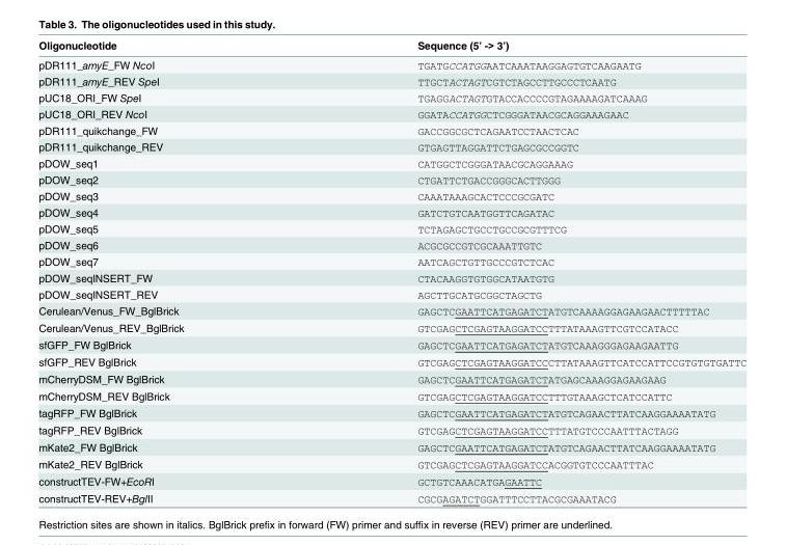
<table><thead><tr><td>Oligonucleotide</td><td>Sequence (5’ -&gt; 3’)</td></tr></thead><tbody><tr><td>pDR111_amyE_FW NcoI</td><td>TGATGCCATGGAATCAAATAAGGAGTGTCAAGAATG</td></tr><tr><td>pDR111_amyE_REV SpeI</td><td>TTGCTACTAGTCGTCTAGCCTTGCCCTCAATG</td></tr><tr><td>pUC18_ORI_FW SpeI</td><td>TGAGGACTAGTGTACCACCCCGTAGAAAAGATCAAAG</td></tr><tr><td>pUC18_ORI_REV NcoI</td><td>GGATACCATGGCTCGGGATAACGCAGGAAAGAAC</td></tr><tr><td>pDR111_quikchange_FW</td><td>GACCGGCGCTCAGAATCCTAACTCAC</td></tr><tr><td>pDR111_quikchange_REV</td><td>GTGAGTTAGGATTCTGAGCGCCGGTC</td></tr><tr><td>pDOW_seq1</td><td>CATGGCTCGGGATAACGCAGGAAAG</td></tr><tr><td>pDOW_seq2</td><td>CTGATTCTGACCGGGCACTTGGG</td></tr><tr><td>pDOW_seq3</td><td>CAAATAAAGCACTCCCGCGATC</td></tr><tr><td>pDOW_seq4</td><td>GATCTGTCAATGGTTCAGATAC</td></tr><tr><td>pDOW_seq5</td><td>TCTAGAGCTGCCTGCCGCGTTTCG</td></tr><tr><td>pDOW_seq6</td><td>ACGCGCCGTCGCAAATTGTC</td></tr><tr><td>pDOW_seq7</td><td>AATCAGCTGTTGCCCGTCTCAC</td></tr><tr><td>pDOW_seqINSERT_FW</td><td>CTACAAGGTGTGGCATAATGTG</td></tr><tr><td>pDOW_seqINSERT_REV</td><td>AGCTTGCATGCGGCTAGCTG</td></tr><tr><td>Cerulean/Venus_FW_BglBrick</td><td>GAGCTCGAATTCATGAGATCTATGTCAAAAGGAGAAGAACTTTTTAC</td></tr><tr><td>Cerulean/Venus_REV_BglBrick</td><td>GTCGAGCTCGAGTAAGGATCCTTTATAAAGTTCGTCCATACC</td></tr><tr><td>sfGFP_FW BglBrick</td><td>GAGCTCGAATTCATGAGATCTATGTCAAAGGGAGAAGAATTG</td></tr><tr><td>sfGFP_REV BglBrick</td><td>GTCGAGCTCGAGTAAGGATCCCTTATAAAGTTCATCCATTCCGTGTGTGATTC</td></tr><tr><td>mCherryDSM_FW BglBrick</td><td>GAGCTCGAATTCATGAGATCTATGAGCAAAGGAGAAGAAG</td></tr><tr><td>mCherryDSM_REV BglBrick</td><td>GTCGAGCTCGAGTAAGGATCCTTTGTAAAGCTCATCCATTC</td></tr><tr><td>tagRFP_FW BglBrick</td><td>GAGCTCGAATTCATGAGATCTATGTCAGAACTTATCAAGGAAAATATG</td></tr><tr><td>tagRFP_REV BglBrick</td><td>GTCGAGCTCGAGTAAGGATCCTTTATGTCCCAATTTACTAGG</td></tr><tr><td>mKate2_FW BglBrick</td><td>GAGCTCGAATTCATGAGATCTATGTCAGAACTTATCAAGGAAAATATG</td></tr><tr><td>mKate2_REV BglBrick</td><td>GTCGAGCTCGAGTAAGGATCCACGGTGTCCCAATTTAC</td></tr><tr><td>constructTEV-FW+EcoRI</td><td>GCTGTCAAACATGAGAATTC</td></tr><tr><td>constructTEV-REV+BglII</td><td>CGCGAGATCTGGATTTCCTTACGCGAAATACG</td></tr></tbody></table>